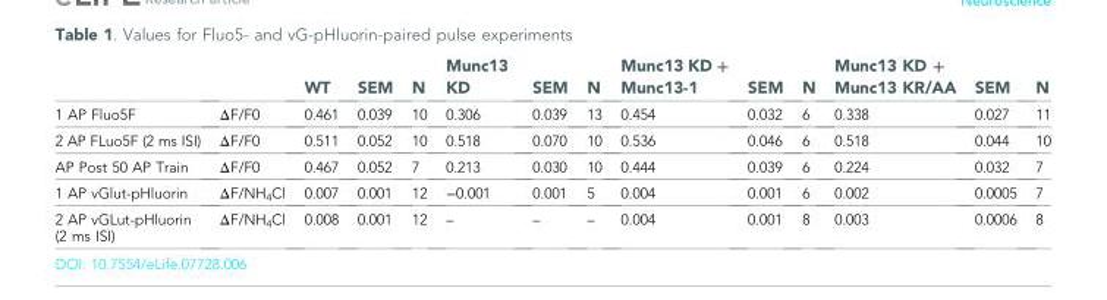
<table><thead><tr><td></td><td></td><td>WT</td><td>SEM</td><td>N</td><td>Munc13 KD</td><td>SEM</td><td>N</td><td>Munc13 KD + Munc13-1</td><td>SEM</td><td>N</td><td>Munc13 KD + Munc13 KR/AA</td><td>SEM</td><td>N</td></tr></thead><tbody><tr><td>1 AP Fluo5F</td><td>ΔF/F0</td><td>0.461</td><td>0.039</td><td>10</td><td>0.306</td><td>0.039</td><td>13</td><td>0.454</td><td>0.032</td><td>6</td><td>0.338</td><td>0.027</td><td>11</td></tr><tr><td>2 AP FLuo5F (2 ms ISI)</td><td>ΔF/F0</td><td>0.511</td><td>0.052</td><td>10</td><td>0.518</td><td>0.070</td><td>10</td><td>0.536</td><td>0.046</td><td>6</td><td>0.518</td><td>0.044</td><td>10</td></tr><tr><td>AP Post 50 AP Train</td><td>ΔF/F0</td><td>0.467</td><td>0.052</td><td>7</td><td>0.213</td><td>0.030</td><td>10</td><td>0.444</td><td>0.039</td><td>6</td><td>0.224</td><td>0.032</td><td>7</td></tr><tr><td>1 AP vGlut-pHluorin</td><td>ΔF/NH<sub>4</sub>Cl</td><td>0.007</td><td>0.001</td><td>12</td><td>−0.001</td><td>0.001</td><td>5</td><td>0.004</td><td>0.001</td><td>6</td><td>0.002</td><td>0.0005</td><td>7</td></tr><tr><td>2 AP vGLut-pHluorin (2 ms ISI)</td><td>ΔF/NH<sub>4</sub>Cl</td><td>0.008</td><td>0.001</td><td>12</td><td>–</td><td>–</td><td>–</td><td>0.004</td><td>0.001</td><td>8</td><td>0.003</td><td>0.0006</td><td>8</td></tr></tbody></table>